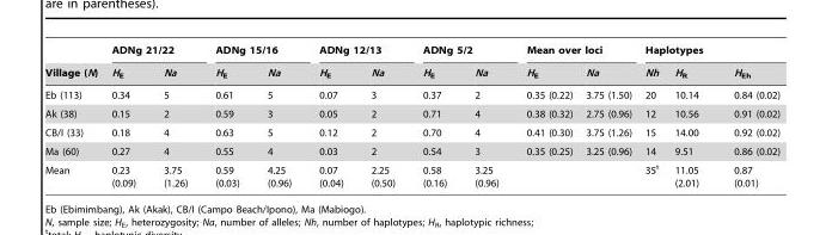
<table><thead><tr><td rowspan="2">Village (N)</td><td colspan="2">ADNg 21/22</td><td colspan="2">ADNg 15/16</td><td colspan="2">ADNg 12/13</td><td colspan="2">ADNg 5/2</td><td colspan="2">Mean over loci</td><td colspan="3">Haplotypes</td></tr><tr><td>H<sub>E</sub></td><td>Na</td><td>H<sub>E</sub></td><td>Na</td><td>H<sub>E</sub></td><td>Na</td><td>H<sub>E</sub></td><td>Na</td><td>H<sub>E</sub></td><td>Na</td><td>Nh</td><td>H<sub>R</sub></td><td>H<sub>Eh</sub></td></tr></thead><tbody><tr><td>Eb (113)</td><td>0.34</td><td>5</td><td>0.61</td><td>5</td><td>0.07</td><td>3</td><td>0.37</td><td>2</td><td>0.35 (0.22)</td><td>3.75 (1.50)</td><td>20</td><td>10.14</td><td>0.84 (0.02)</td></tr><tr><td>Ak (38)</td><td>0.15</td><td>2</td><td>0.59</td><td>3</td><td>0.05</td><td>2</td><td>0.71</td><td>4</td><td>0.38 (0.32)</td><td>2.75 (0.96)</td><td>12</td><td>10.56</td><td>0.91 (0.02)</td></tr><tr><td>CB/I (33)</td><td>0.18</td><td>4</td><td>0.63</td><td>5</td><td>0.12</td><td>2</td><td>0.70</td><td>4</td><td>0.41 (0.30)</td><td>3.75 (1.26)</td><td>15</td><td>14.00</td><td>0.92 (0.02)</td></tr><tr><td>Ma (60)</td><td>0.27</td><td>4</td><td>0.55</td><td>4</td><td>0.03</td><td>2</td><td>0.54</td><td>3</td><td>0.35 (0.25)</td><td>3.25 (0.96)</td><td>14</td><td>9.51</td><td>0.86 (0.02)</td></tr><tr><td>Mean</td><td>0.23 (0.09)</td><td>3.75 (1.26)</td><td>0.59 (0.03)</td><td>4.25 (0.96)</td><td>0.07 (0.04)</td><td>2.25 (0.50)</td><td>0.58 (0.16)</td><td>3.25 (0.96)</td><td></td><td></td><td>35<sup>t</sup></td><td>11.05 (2.01)</td><td>0.87 (0.01)</td></tr></tbody></table>